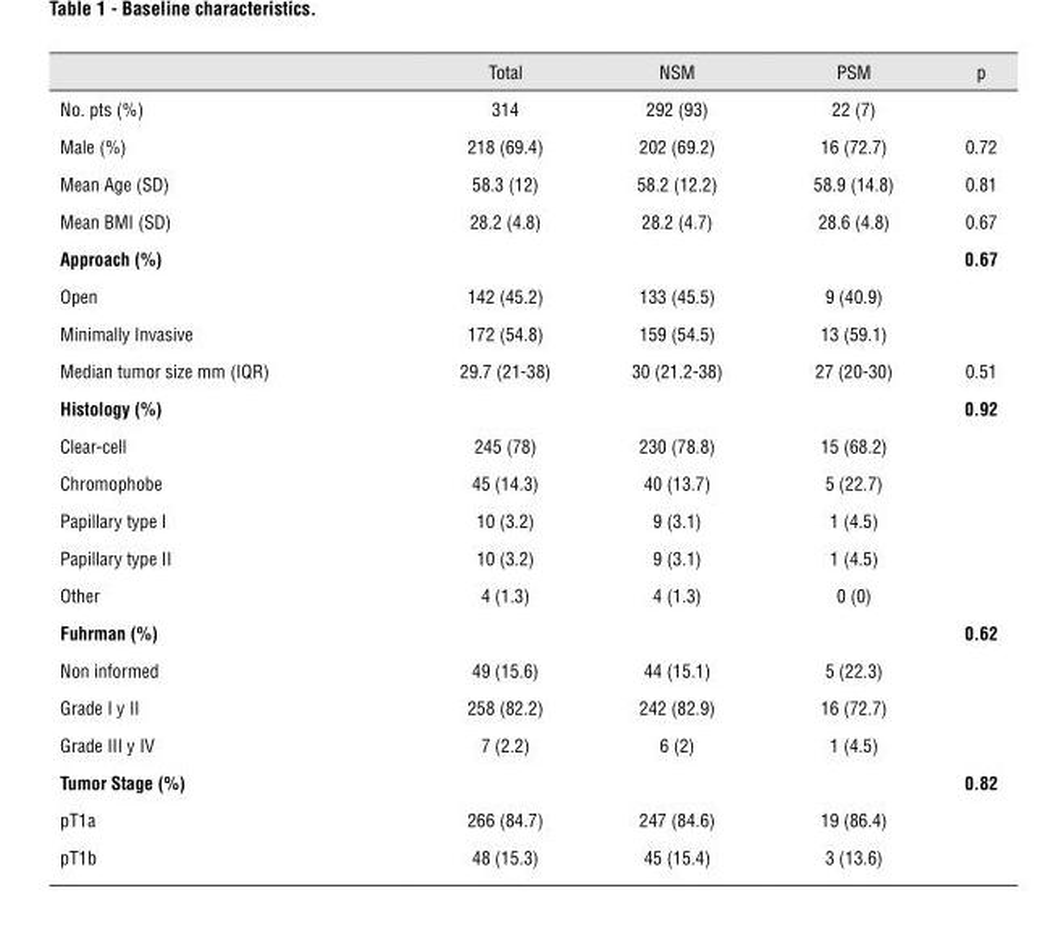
<table><thead><tr><td></td><td>Total</td><td>NSM</td><td>PSM</td><td>p</td></tr></thead><tbody><tr><td>No. pts (%)</td><td>314</td><td>292 (93)</td><td>22 (7)</td><td></td></tr><tr><td>Male (%)</td><td>218 (69.4)</td><td>202 (69.2)</td><td>16 (72.7)</td><td>0.72</td></tr><tr><td>Mean Age (SD)</td><td>58.3 (12)</td><td>58.2 (12.2)</td><td>58.9 (14.8)</td><td>0.81</td></tr><tr><td>Mean BMI (SD)</td><td>28.2 (4.8)</td><td>28.2 (4.7)</td><td>28.6 (4.8)</td><td>0.67</td></tr><tr><td>Approach (%)</td><td></td><td></td><td></td><td>0.67</td></tr><tr><td>Open</td><td>142 (45.2)</td><td>133 (45.5)</td><td>9 (40.9)</td><td></td></tr><tr><td>Minimally Invasive</td><td>172 (54.8)</td><td>159 (54.5)</td><td>13 (59.1)</td><td></td></tr><tr><td>Median tumor size mm (IQR)</td><td>29.7 (21-38)</td><td>30 (21.2-38)</td><td>27 (20-30)</td><td>0.51</td></tr><tr><td>Histology (%)</td><td></td><td></td><td></td><td>0.92</td></tr><tr><td>Clear-cell</td><td>245 (78)</td><td>230 (78.8)</td><td>15 (68.2)</td><td></td></tr><tr><td>Chromophobe</td><td>45 (14.3)</td><td>40 (13.7)</td><td>5 (22.7)</td><td></td></tr><tr><td>Papillary type I</td><td>10 (3.2)</td><td>9 (3.1)</td><td>1 (4.5)</td><td></td></tr><tr><td>Papillary type II</td><td>10 (3.2)</td><td>9 (3.1)</td><td>1 (4.5)</td><td></td></tr><tr><td>Other</td><td>4 (1.3)</td><td>4 (1.3)</td><td>0 (0)</td><td></td></tr><tr><td>fuhrman (%)</td><td></td><td></td><td></td><td>0.62</td></tr><tr><td>Non informed</td><td>49 (15.6)</td><td>44 (15.1)</td><td>5 (22.3)</td><td></td></tr><tr><td>Grade I y II</td><td>258 (82.2)</td><td>242 (82.9)</td><td>16 (72.7)</td><td></td></tr><tr><td>Grade III y IV</td><td>7 (2.2)</td><td>6 (2)</td><td>1 (4.5)</td><td></td></tr><tr><td>Tumor Stage (%)</td><td></td><td></td><td></td><td>0.82</td></tr><tr><td>pT1a</td><td>266 (84.7)</td><td>247 (84.6)</td><td>19 (86.4)</td><td></td></tr><tr><td>pT1b</td><td>48 (15.3)</td><td>45 (15.4)</td><td>3 (13.6)</td><td></td></tr></tbody></table>